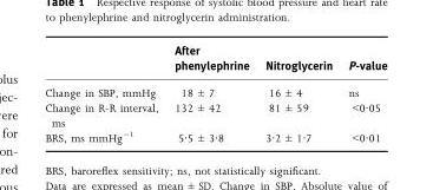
<table><thead><tr><td></td><td>After phenylephrine</td><td>Nitroglycerin</td><td>P-value</td></tr></thead><tbody><tr><td>Change in SBP, mmHg</td><td>18 ± 7</td><td>16 ± 4</td><td>ns</td></tr><tr><td>Change in R-R interval, ms</td><td>132 ± 42</td><td>81 ± 59</td><td>&lt;0·05</td></tr><tr><td>BRS, ms mmHg<sup>−1</sup></td><td>5·5 ± 3·8</td><td>3·2 ± 1·7</td><td>&lt;0·01</td></tr></tbody></table>